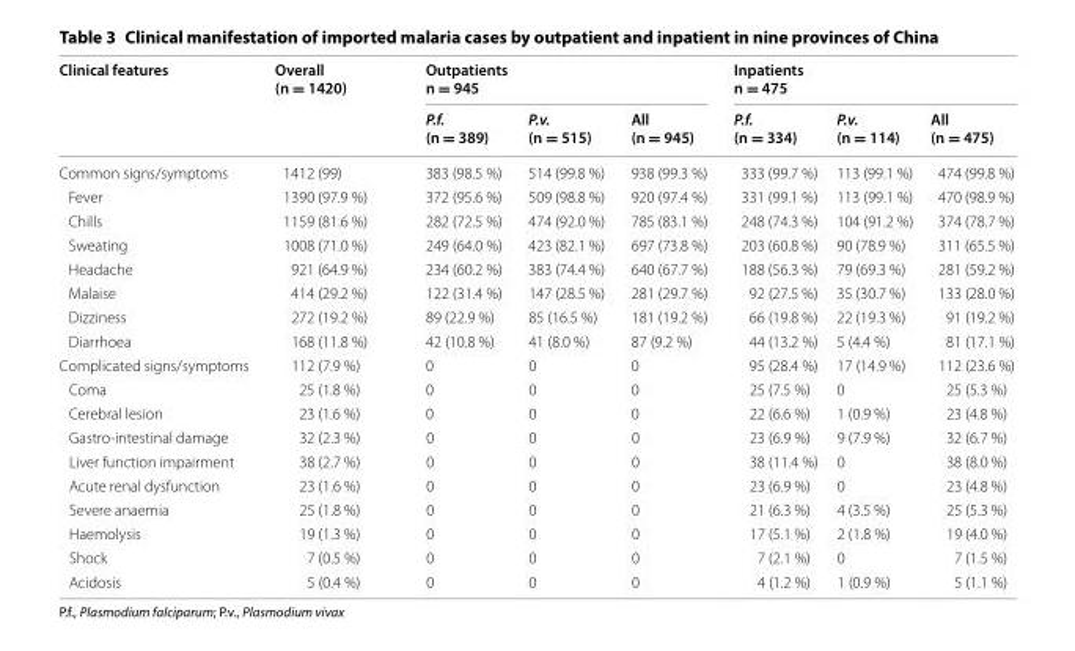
<table><thead><tr><td rowspan="2">Clinical features</td><td rowspan="2">Overall (n = 1420)</td><td colspan="3">Outpatients n = 945</td><td colspan="3">Inpatients n = 475</td></tr><tr><td>P.f. (n = 389)</td><td>P.v. (n = 515)</td><td>All (n = 945)</td><td>P.f. (n = 334)</td><td>P.v. (n = 114)</td><td>All (n = 475)</td></tr></thead><tbody><tr><td>Common signs/symptoms</td><td>1412 (99)</td><td>383 (98.5 %)</td><td>514 (99.8 %)</td><td>938 (99.3 %)</td><td>333 (99.7 %)</td><td>113 (99.1 %)</td><td>474 (99.8 %)</td></tr><tr><td>Fever</td><td>1390 (97.9 %)</td><td>372 (95.6 %)</td><td>509 (98.8 %)</td><td>920 (97.4 %)</td><td>331 (99.1 %)</td><td>113 (99.1 %)</td><td>470 (98.9 %)</td></tr><tr><td>Chills</td><td>1159 (81.6 %)</td><td>282 (72.5 %)</td><td>474 (92.0 %)</td><td>785 (83.1 %)</td><td>248 (74.3 %)</td><td>104 (91.2 %)</td><td>374 (78.7 %)</td></tr><tr><td>Sweating</td><td>1008 (71.0 %)</td><td>249 (64.0 %)</td><td>423 (82.1 %)</td><td>697 (73.8 %)</td><td>203 (60.8 %)</td><td>90 (78.9 %)</td><td>311 (65.5 %)</td></tr><tr><td>Headache</td><td>921 (64.9 %)</td><td>234 (60.2 %)</td><td>383 (74.4 %)</td><td>640 (67.7 %)</td><td>188 (56.3 %)</td><td>79 (69.3 %)</td><td>281 (59.2 %)</td></tr><tr><td>Malaise</td><td>414 (29.2 %)</td><td>122 (31.4 %)</td><td>147 (28.5 %)</td><td>281 (29.7 %)</td><td>92 (27.5 %)</td><td>35 (30.7 %)</td><td>133 (28.0 %)</td></tr><tr><td>Dizziness</td><td>272 (19.2 %)</td><td>89 (22.9 %)</td><td>85 (16.5 %)</td><td>181 (19.2 %)</td><td>66 (19.8 %)</td><td>22 (19.3 %)</td><td>91 (19.2 %)</td></tr><tr><td>Diarrhoea</td><td>168 (11.8 %)</td><td>42 (10.8 %)</td><td>41 (8.0 %)</td><td>87 (9.2 %)</td><td>44 (13.2 %)</td><td>5 (4.4 %)</td><td>81 (17.1 %)</td></tr><tr><td>Complicated signs/symptoms</td><td>112 (7.9 %)</td><td>0</td><td>0</td><td>0</td><td>95 (28.4 %)</td><td>17 (14.9 %)</td><td>112 (23.6 %)</td></tr><tr><td>Coma</td><td>25 (1.8 %)</td><td>0</td><td>0</td><td>0</td><td>25 (7.5 %)</td><td>0</td><td>25 (5.3 %)</td></tr><tr><td>Cerebral lesion</td><td>23 (1.6 %)</td><td>0</td><td>0</td><td>0</td><td>22 (6.6 %)</td><td>1 (0.9 %)</td><td>23 (4.8 %)</td></tr><tr><td>Gastro‑intestinal damage</td><td>32 (2.3 %)</td><td>0</td><td>0</td><td>0</td><td>23 (6.9 %)</td><td>9 (7.9 %)</td><td>32 (6.7 %)</td></tr><tr><td>Liver function impairment</td><td>38 (2.7 %)</td><td>0</td><td>0</td><td>0</td><td>38 (11.4 %)</td><td>0</td><td>38 (8.0 %)</td></tr><tr><td>Acute renal dysfunction</td><td>23 (1.6 %)</td><td>0</td><td>0</td><td>0</td><td>23 (6.9 %)</td><td>0</td><td>23 (4.8 %)</td></tr><tr><td>Severe anaemia</td><td>25 (1.8 %)</td><td>0</td><td>0</td><td>0</td><td>21 (6.3 %)</td><td>4 (3.5 %)</td><td>25 (5.3 %)</td></tr><tr><td>Haemolysis</td><td>19 (1.3 %)</td><td>0</td><td>0</td><td>0</td><td>17 (5.1 %)</td><td>2 (1.8 %)</td><td>19 (4.0 %)</td></tr><tr><td>Shock</td><td>7 (0.5 %)</td><td>0</td><td>0</td><td>0</td><td>7 (2.1 %)</td><td>0</td><td>7 (1.5 %)</td></tr><tr><td>Acidosis</td><td>5 (0.4 %)</td><td>0</td><td>0</td><td>0</td><td>4 (1.2 %)</td><td>1 (0.9 %)</td><td>5 (1.1 %)</td></tr></tbody></table>